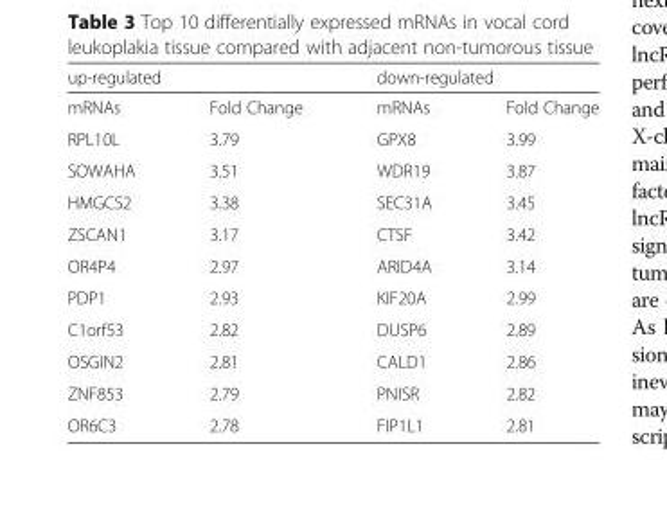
<table><thead><tr><td colspan="2">up-regulated</td><td colspan="2">down-regulated</td></tr><tr><td>mRNAs</td><td>Fold Change</td><td>mRNAs</td><td>Fold Change</td></tr></thead><tbody><tr><td>RPL10L</td><td>3.79</td><td>GPX8</td><td>3.99</td></tr><tr><td>SOWAHA</td><td>3.51</td><td>WDR19</td><td>3.87</td></tr><tr><td>HMGCS2</td><td>3.38</td><td>SEC31A</td><td>3.45</td></tr><tr><td>ZSCAN1</td><td>3.17</td><td>CTSF</td><td>3.42</td></tr><tr><td>OR4P4</td><td>2.97</td><td>ARID4A</td><td>3.14</td></tr><tr><td>PDP1</td><td>2.93</td><td>KIF20A</td><td>2.99</td></tr><tr><td>C1orf53</td><td>2.82</td><td>DUSP6</td><td>2.89</td></tr><tr><td>OSGIN2</td><td>2.81</td><td>CALD1</td><td>2.86</td></tr><tr><td>ZNF853</td><td>2.79</td><td>PNISR</td><td>2.82</td></tr><tr><td>OR6C3</td><td>2.78</td><td>FIP1L1</td><td>2.81</td></tr></tbody></table>